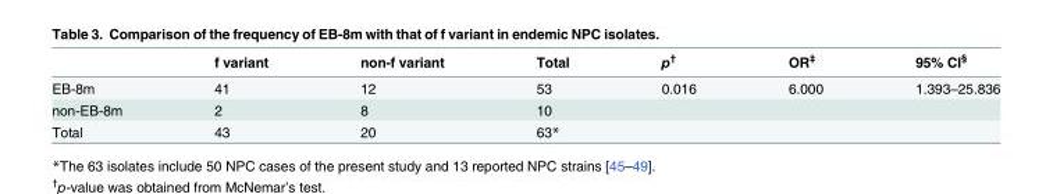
<table><thead><tr><td></td><td>f variant</td><td>non-f variant</td><td>Total</td><td>p<sup>†</sup></td><td>OR<sup>‡</sup></td><td>95% CI<sup>§</sup></td></tr></thead><tbody><tr><td>EB-8m</td><td>41</td><td>12</td><td>53</td><td>0.016</td><td>6.000</td><td>1.393–25.836</td></tr><tr><td>non-EB-8m</td><td>2</td><td>8</td><td>10</td><td></td><td></td><td></td></tr><tr><td>Total</td><td>43</td><td>20</td><td>63*</td><td></td><td></td><td></td></tr></tbody></table>